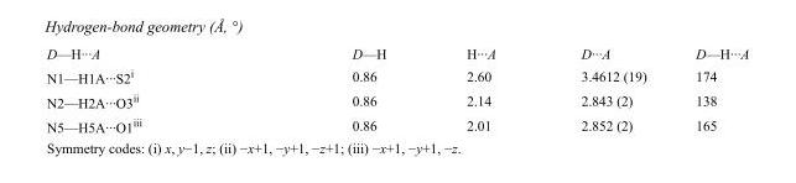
<table><tbody><tr><td>D—H···A</td><td>D—H</td><td>H···A</td><td>D···A</td><td>D—H···A</td></tr><tr><td>N1—H1A···S2<sup>i</sup></td><td>0.86</td><td>2.60</td><td>3.4612 (19)</td><td>174</td></tr><tr><td>N2—H2A···O3<sup>ii</sup></td><td>0.86</td><td>2.14</td><td>2.843 (2)</td><td>138</td></tr><tr><td>N5—H5A···O1<sup>iii</sup></td><td>0.86</td><td>2.01</td><td>2.852 (2)</td><td>165</td></tr></tbody></table>